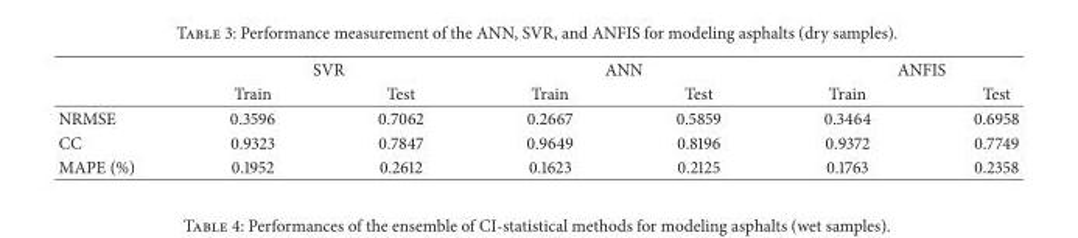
<table><thead><tr><td rowspan="2"></td><td colspan="2">SVR</td><td colspan="2">ANN</td><td colspan="2">ANFIS</td></tr><tr><td>Train</td><td>Test</td><td>Train</td><td>Test</td><td>Train</td><td>Test</td></tr></thead><tbody><tr><td>NRMSE</td><td>0.3596</td><td>0.7062</td><td>0.2667</td><td>0.5859</td><td>0.3464</td><td>0.6958</td></tr><tr><td>CC</td><td>0.9323</td><td>0.7847</td><td>0.9649</td><td>0.8196</td><td>0.9372</td><td>0.7749</td></tr><tr><td>MAPE (%)</td><td>0.1952</td><td>0.2612</td><td>0.1623</td><td>0.2125</td><td>0.1763</td><td>0.2358</td></tr></tbody></table>